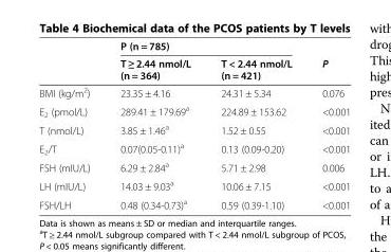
<table><thead><tr><td rowspan="2"></td><td colspan="2">P (n = 785)</td><td rowspan="2">P</td></tr><tr><td>T ≥ 2.44 nmol/L (n = 364)</td><td>T &lt; 2.44 nmol/L (n = 421)</td></tr></thead><tbody><tr><td>BMI (kg/m<sup>2</sup>)</td><td>23.35 ± 4.16</td><td>24.31 ± 5.34</td><td>0.076</td></tr><tr><td>E<sub>2</sub> (pmol/L)</td><td>289.41 ± 179.69<sup>a</sup></td><td>224.89 ± 153.62</td><td>&lt;0.001</td></tr><tr><td>T (nmol/L)</td><td>3.85 ± 1.46<sup>a</sup></td><td>1.52 ± 0.55</td><td>&lt;0.001</td></tr><tr><td>E<sub>2</sub>/T</td><td>0.07(0.05-0.11)<sup>a</sup></td><td>0.13 (0.09-0.20)</td><td>&lt;0.001</td></tr><tr><td>FSH (mIU/L)</td><td>6.29 ± 2.84<sup>a</sup></td><td>5.71 ± 2.98</td><td>0.006</td></tr><tr><td>LH (mIU/L)</td><td>14.03 ± 9.03<sup>a</sup></td><td>10.06 ± 7.15</td><td>&lt;0.001</td></tr><tr><td>FSH/LH</td><td>0.48 (0.34-0.73)<sup>a</sup></td><td>0.59 (0.39-1.10)</td><td>&lt;0.001</td></tr></tbody></table>